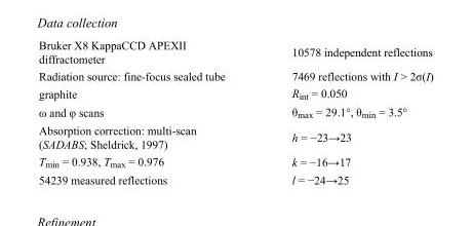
<table><tbody><tr><td>Bruker X8 KappaCCD APEXII diffractometer</td><td>10578 independent reflections</td></tr><tr><td>Radiation source: fine-focus sealed tube</td><td>7469 reflections with I &gt; 2σ(I)</td></tr><tr><td>graphite</td><td>R<sub>int</sub> = 0.050</td></tr><tr><td>ω and φ scans</td><td>θ<sub>max</sub> = 29.1°, θ<sub>min</sub> = 3.5°</td></tr><tr><td>Absorption correction: multi-scan (SADABS; Sheldrick, 1997)</td><td>h = −23→23</td></tr><tr><td>T<sub>min</sub> = 0.938, T<sub>max</sub> = 0.976</td><td>k = −16→17</td></tr><tr><td>54239 measured reflections</td><td>l = −24→25</td></tr></tbody></table>